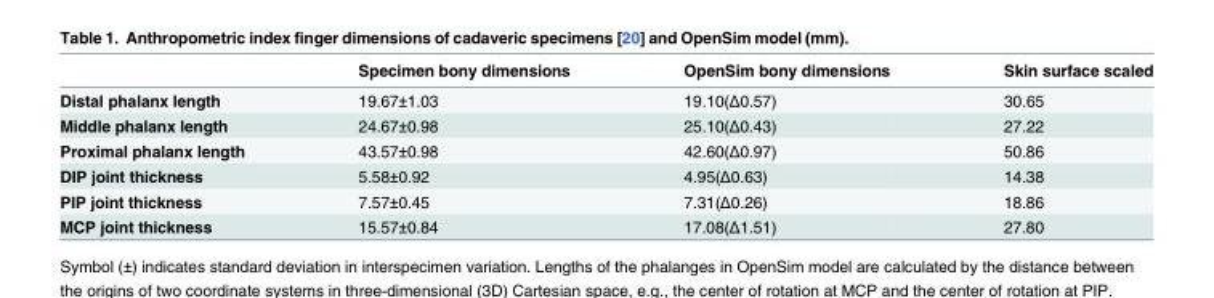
<table><thead><tr><td></td><td>Specimen bony dimensions</td><td>OpenSim bony dimensions</td><td>Skin surface scaled</td></tr></thead><tbody><tr><td>Distal phalanx length</td><td>19.67±1.03</td><td>19.10(Δ0.57)</td><td>30.65</td></tr><tr><td>Middle phalanx length</td><td>24.67±0.98</td><td>25.10(Δ0.43)</td><td>27.22</td></tr><tr><td>Proximal phalanx length</td><td>43.57±0.98</td><td>42.60(Δ0.97)</td><td>50.86</td></tr><tr><td>DIP joint thickness</td><td>5.58±0.92</td><td>4.95(Δ0.63)</td><td>14.38</td></tr><tr><td>PIP joint thickness</td><td>7.57±0.45</td><td>7.31(Δ0.26)</td><td>18.86</td></tr><tr><td>MCP joint thickness</td><td>15.57±0.84</td><td>17.08(Δ1.51)</td><td>27.80</td></tr></tbody></table>